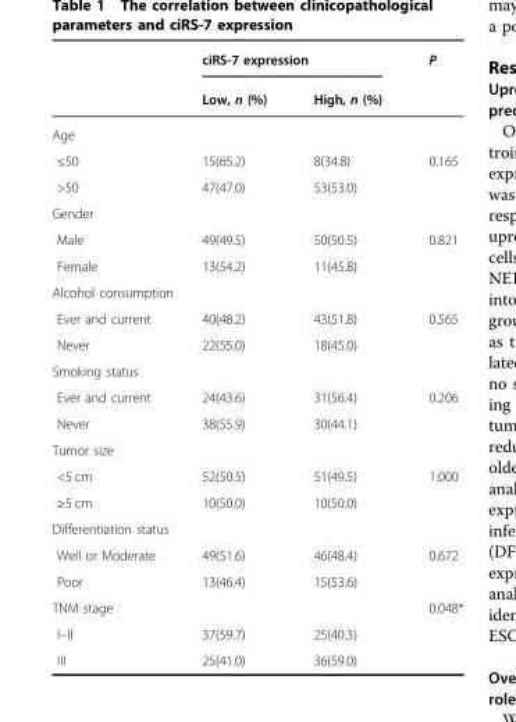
<table><thead><tr><td rowspan="2"></td><td colspan="2">ciRS-7 expression</td><td rowspan="2">P</td></tr><tr><td>Low, n (%)</td><td>High, n (%)</td></tr></thead><tbody><tr><td colspan="4">Age</td></tr><tr><td>≤50</td><td>15(65.2)</td><td>8(34.8)</td><td>0.165</td></tr><tr><td>&gt;50</td><td>47(47.0)</td><td>53(53.0)</td><td></td></tr><tr><td colspan="4">Gender</td></tr><tr><td>Male</td><td>49(49.5)</td><td>50(50.5)</td><td>0.821</td></tr><tr><td>Female</td><td>13(54.2)</td><td>11(45.8)</td><td></td></tr><tr><td colspan="4">Alcohol consumption</td></tr><tr><td>Ever and current</td><td>40(48.2)</td><td>43(51.8)</td><td>0.565</td></tr><tr><td>Never</td><td>22(55.0)</td><td>18(45.0)</td><td></td></tr><tr><td colspan="4">Smoking status</td></tr><tr><td>Ever and current</td><td>24(43.6)</td><td>31(56.4)</td><td>0.206</td></tr><tr><td>Never</td><td>38(55.9)</td><td>30(44.1)</td><td></td></tr><tr><td colspan="4">Tumor size</td></tr><tr><td>&lt;5 cm</td><td>52(50.5)</td><td>51(49.5)</td><td>1.000</td></tr><tr><td>≥5 cm</td><td>10(50.0)</td><td>10(50.0)</td><td></td></tr><tr><td colspan="4">Differentiation status</td></tr><tr><td>Well or Moderate</td><td>49(51.6)</td><td>46(48.4)</td><td>0.672</td></tr><tr><td>Poor</td><td>13(46.4)</td><td>15(53.6)</td><td></td></tr><tr><td>TNM stage</td><td></td><td></td><td>0.048*</td></tr><tr><td>I–II</td><td>37(59.7)</td><td>25(40.3)</td><td></td></tr><tr><td>III</td><td>25(41.0)</td><td>36(59.0)</td><td></td></tr></tbody></table>